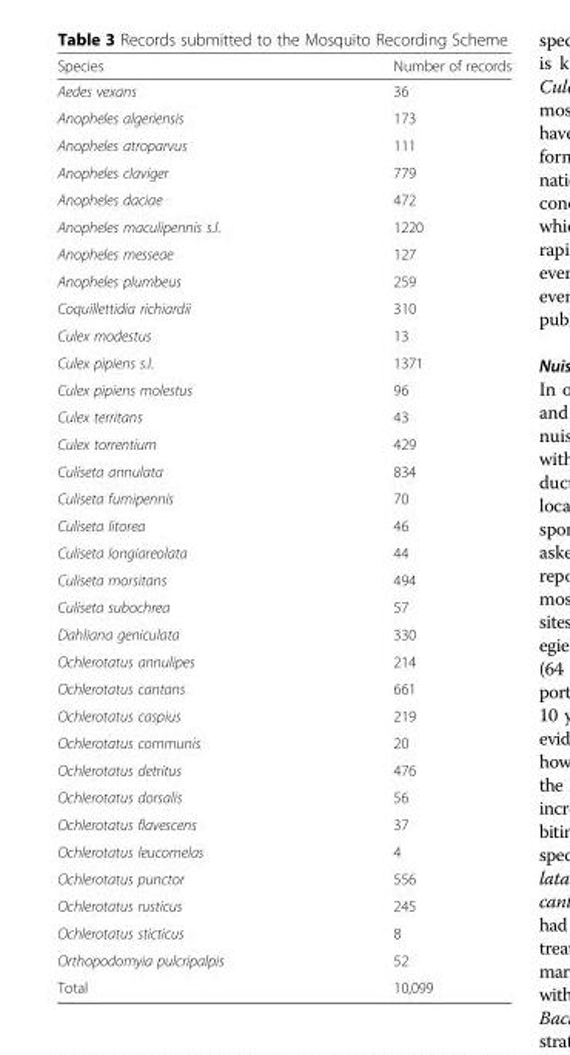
<table><thead><tr><td>Species</td><td>Number of records</td></tr></thead><tbody><tr><td>Aedes vexans</td><td>36</td></tr><tr><td>Anopheles algeriensis</td><td>173</td></tr><tr><td>Anopheles atroparvus</td><td>111</td></tr><tr><td>Anopheles claviger</td><td>779</td></tr><tr><td>Anopheles daciae</td><td>472</td></tr><tr><td>Anopheles maculipennis s.l.</td><td>1220</td></tr><tr><td>Anopheles messeae</td><td>127</td></tr><tr><td>Anopheles plumbeus</td><td>259</td></tr><tr><td>Coquillettidia richiardii</td><td>310</td></tr><tr><td>Culex modestus</td><td>13</td></tr><tr><td>Culex pipiens s.l.</td><td>1371</td></tr><tr><td>Culex pipiens molestus</td><td>96</td></tr><tr><td>Culex territans</td><td>43</td></tr><tr><td>Culex torrentium</td><td>429</td></tr><tr><td>Culiseta annulata</td><td>834</td></tr><tr><td>Culiseta fumipennis</td><td>70</td></tr><tr><td>Culiseta litorea</td><td>46</td></tr><tr><td>Culiseta longiareolata</td><td>44</td></tr><tr><td>Culiseta morsitans</td><td>494</td></tr><tr><td>Culiseta subochrea</td><td>57</td></tr><tr><td>Dahliana geniculata</td><td>330</td></tr><tr><td>Ochlerotatus annulipes</td><td>214</td></tr><tr><td>Ochlerotatus cantans</td><td>661</td></tr><tr><td>Ochlerotatus caspius</td><td>219</td></tr><tr><td>Ochlerotatus communis</td><td>20</td></tr><tr><td>Ochlerotatus detritus</td><td>476</td></tr><tr><td>Ochlerotatus dorsalis</td><td>56</td></tr><tr><td>Ochlerotatus flavescens</td><td>37</td></tr><tr><td>Ochlerotatus leucomelas</td><td>4</td></tr><tr><td>Ochlerotatus punctor</td><td>556</td></tr><tr><td>Ochlerotatus rusticus</td><td>245</td></tr><tr><td>Ochlerotatus sticticus</td><td>8</td></tr><tr><td>Orthopodomyia pulcripalpis</td><td>52</td></tr><tr><td>Total</td><td>10,099</td></tr></tbody></table>